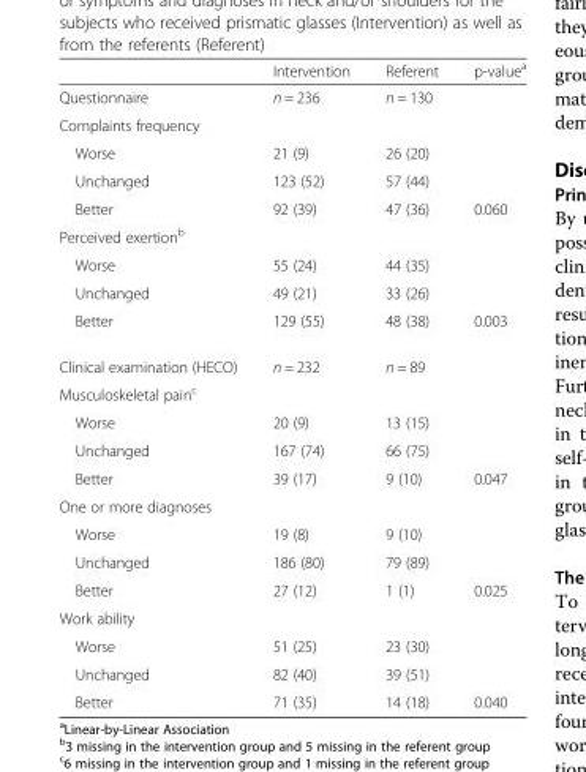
<table><thead><tr><td></td><td>Intervention</td><td>Referent</td><td>p-value<sup>a</sup></td></tr></thead><tbody><tr><td>Questionnaire</td><td>n = 236</td><td>n = 130</td><td></td></tr><tr><td colspan="4">Complaints frequency</td></tr><tr><td>Worse</td><td>21 (9)</td><td>26 (20)</td><td></td></tr><tr><td>Unchanged</td><td>123 (52)</td><td>57 (44)</td><td></td></tr><tr><td>Better</td><td>92 (39)</td><td>47 (36)</td><td>0.060</td></tr><tr><td colspan="4">Perceived exertion<sup>b</sup></td></tr><tr><td>Worse</td><td>55 (24)</td><td>44 (35)</td><td></td></tr><tr><td>Unchanged</td><td>49 (21)</td><td>33 (26)</td><td></td></tr><tr><td>Better</td><td>129 (55)</td><td>48 (38)</td><td>0.003</td></tr><tr><td>Clinical examination (HECO)</td><td>n = 232</td><td>n = 89</td><td></td></tr><tr><td colspan="4">Musculoskeletal pain<sup>c</sup></td></tr><tr><td>Worse</td><td>20 (9)</td><td>13 (15)</td><td></td></tr><tr><td>Unchanged</td><td>167 (74)</td><td>66 (75)</td><td></td></tr><tr><td>Better</td><td>39 (17)</td><td>9 (10)</td><td>0.047</td></tr><tr><td colspan="4">One or more diagnoses</td></tr><tr><td>Worse</td><td>19 (8)</td><td>9 (10)</td><td></td></tr><tr><td>Unchanged</td><td>186 (80)</td><td>79 (89)</td><td></td></tr><tr><td>Better</td><td>27 (12)</td><td>1 (1)</td><td>0.025</td></tr><tr><td colspan="4">Work ability</td></tr><tr><td>Worse</td><td>51 (25)</td><td>23 (30)</td><td></td></tr><tr><td>Unchanged</td><td>82 (40)</td><td>39 (51)</td><td></td></tr><tr><td>Better</td><td>71 (35)</td><td>14 (18)</td><td>0.040</td></tr></tbody></table>